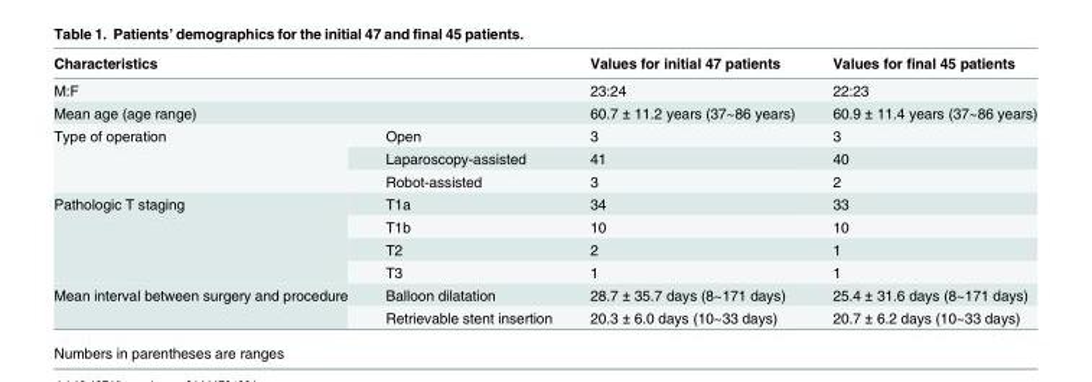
<table><thead><tr><td colspan="2">Characteristics</td><td rowspan="2">Values for initial 47 patients 23:24</td><td rowspan="2">Values for final 45 patients 22:23</td></tr><tr><td>M:F</td><td></td></tr></thead><tbody><tr><td>Mean age (age range)</td><td></td><td>60.7 ± 11.2 years (37~86 years)</td><td>60.9 ± 11.4 years (37~86 years)</td></tr><tr><td rowspan="3">Type of operation</td><td>Open</td><td>3</td><td>3</td></tr><tr><td>Laparoscopy-assisted</td><td>41</td><td>40</td></tr><tr><td>Robot-assisted</td><td>3</td><td>2</td></tr><tr><td rowspan="4">Pathologic T staging</td><td>T1a</td><td>34</td><td>33</td></tr><tr><td>T1b</td><td>10</td><td>10</td></tr><tr><td>T2</td><td>2</td><td>1</td></tr><tr><td>T3</td><td>1</td><td>1</td></tr><tr><td rowspan="2">Mean interval between surgery and procedure</td><td>Balloon dilatation</td><td>28.7 ± 35.7 days (8~171 days)</td><td>25.4 ± 31.6 days (8~171 days)</td></tr><tr><td>Retrievable stent insertion</td><td>20.3 ± 6.0 days (10~33 days)</td><td>20.7 ± 6.2 days (10~33 days)</td></tr></tbody></table>